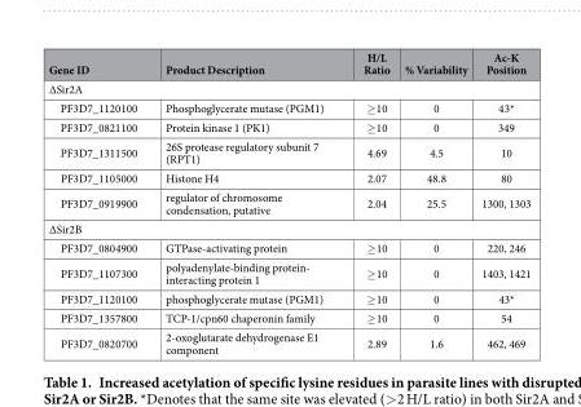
<table><thead><tr><td>Gene ID</td><td>Product Description</td><td>H/L Ratio</td><td>% Variability</td><td>Ac-K Position</td></tr></thead><tbody><tr><td colspan="5">∆Sir2A</td></tr><tr><td>PF3D7_1120100</td><td>Phosphoglycerate mutase (PGM1)</td><td>≥ 10</td><td>0</td><td>43*</td></tr><tr><td>PF3D7_0821100</td><td>Protein kinase 1 (PK1)</td><td>≥ 10</td><td>0</td><td>349</td></tr><tr><td>PF3D7_1311500</td><td>26S protease regulatory subunit 7 (RPT1)</td><td>4.69</td><td>4.5</td><td>10</td></tr><tr><td>PF3D7_1105000</td><td>Histone H4</td><td>2.07</td><td>48.8</td><td>80</td></tr><tr><td>PF3D7_0919900</td><td>regulator of chromosome condensation, putative</td><td>2.04</td><td>25.5</td><td>1300, 1303</td></tr><tr><td colspan="5">∆Sir2B</td></tr><tr><td>PF3D7_0804900</td><td>GTPase-activating protein</td><td>≥ 10</td><td>0</td><td>220, 246</td></tr><tr><td>PF3D7_1107300</td><td>polyadenylate-binding protein- interacting protein 1</td><td>≥ 10</td><td>0</td><td>1403, 1421</td></tr><tr><td>PF3D7_1120100</td><td>phosphoglycerate mutase (PGM1)</td><td>≥ 10</td><td>0</td><td>43*</td></tr><tr><td>PF3D7_1357800</td><td>TCP-1/cpn60 chaperonin family</td><td>≥ 10</td><td>0</td><td>54</td></tr><tr><td>PF3D7_0820700</td><td>2-oxoglutarate dehydrogenase E1 component</td><td>2.89</td><td>1.6</td><td>462, 469</td></tr></tbody></table>